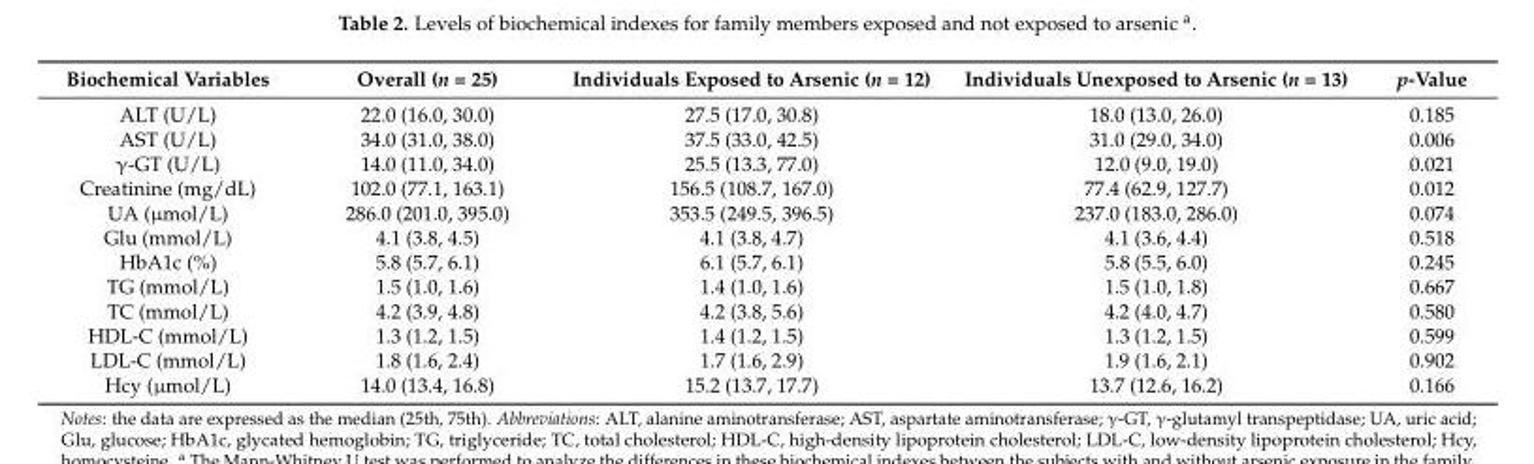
<table><thead><tr><td>Biochemical Variables</td><td>Overall (n = 25)</td><td>Individuals Exposed to Arsenic (n = 12)</td><td>Individuals Unexposed to Arsenic (n = 13)</td><td>p-Value</td></tr></thead><tbody><tr><td>ALT (U/L)</td><td>22.0 (16.0, 30.0)</td><td>27.5 (17.0, 30.8)</td><td>18.0 (13.0, 26.0)</td><td>0.185</td></tr><tr><td>AST (U/L)</td><td>34.0 (31.0, 38.0)</td><td>37.5 (33.0, 42.5)</td><td>31.0 (29.0, 34.0)</td><td>0.006</td></tr><tr><td>γ-GT (U/L)</td><td>14.0 (11.0, 34.0)</td><td>25.5 (13.3, 77.0)</td><td>12.0 (9.0, 19.0)</td><td>0.021</td></tr><tr><td>Creatinine (mg/dL)</td><td>102.0 (77.1, 163.1)</td><td>156.5 (108.7, 167.0)</td><td>77.4 (62.9, 127.7)</td><td>0.012</td></tr><tr><td>UA (µmol/L)</td><td>286.0 (201.0, 395.0)</td><td>353.5 (249.5, 396.5)</td><td>237.0 (183.0, 286.0)</td><td>0.074</td></tr><tr><td>Glu (mmol/L)</td><td>4.1 (3.8, 4.5)</td><td>4.1 (3.8, 4.7)</td><td>4.1 (3.6, 4.4)</td><td>0.518</td></tr><tr><td>HbA1c (%)</td><td>5.8 (5.7, 6.1)</td><td>6.1 (5.7, 6.1)</td><td>5.8 (5.5, 6.0)</td><td>0.245</td></tr><tr><td>TG (mmol/L)</td><td>1.5 (1.0, 1.6)</td><td>1.4 (1.0, 1.6)</td><td>1.5 (1.0, 1.8)</td><td>0.667</td></tr><tr><td>TC (mmol/L)</td><td>4.2 (3.9, 4.8)</td><td>4.2 (3.8, 5.6)</td><td>4.2 (4.0, 4.7)</td><td>0.580</td></tr><tr><td>HDL-C (mmol/L)</td><td>1.3 (1.2, 1.5)</td><td>1.4 (1.2, 1.5)</td><td>1.3 (1.2, 1.5)</td><td>0.599</td></tr><tr><td>LDL-C (mmol/L)</td><td>1.8 (1.6, 2.4)</td><td>1.7 (1.6, 2.9)</td><td>1.9 (1.6, 2.1)</td><td>0.902</td></tr><tr><td>Hcy (µmol/L)</td><td>14.0 (13.4, 16.8)</td><td>15.2 (13.7, 17.7)</td><td>13.7 (12.6, 16.2)</td><td>0.166</td></tr></tbody></table>